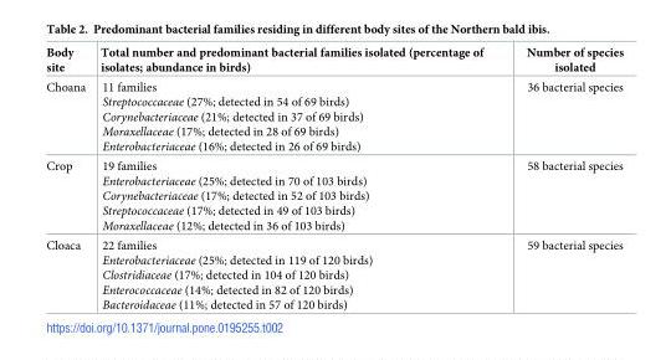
<table><thead><tr><td>Body site</td><td>Total number and predominant bacterial families isolated (percentage of isolates; abundance in birds)</td><td>Number of species isolated</td></tr></thead><tbody><tr><td>Choana</td><td>11 families Streptococcaceae (27%; detected in 54 of 69 birds) Corynebacteriaceae (21%; detected in 37 of 69 birds) Moraxellaceae (17%; detected in 28 of 69 birds) Enterobacteriaceae (16%; detected in 26 of 69 birds)</td><td>36 bacterial species</td></tr><tr><td>Crop</td><td>19 families Enterobacteriaceae (25%; detected in 70 of 103 birds) Corynebacteriaceae (17%; detected in 52 of 103 birds) Streptococcaceae (17%; detected in 49 of 103 birds) Moraxellaceae (12%; detected in 36 of 103 birds)</td><td>58 bacterial species</td></tr><tr><td>Cloaca</td><td>22 families Enterobacteriaceae (25%; detected in 119 of 120 birds) Clostridiaceae (17%; detected in 104 of 120 birds) Enterococcaceae (14%; detected in 82 of 120 birds) Bacteroidaceae (11%; detected in 57 of 120 birds)</td><td>59 bacterial species</td></tr></tbody></table>